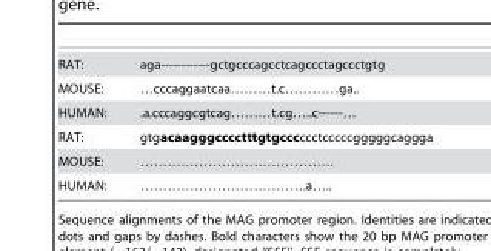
<table><tbody><tr><td>RAT:</td><td>aga------------gctgcccagcctcagccctagccctgtg</td></tr><tr><td>MOUSE:</td><td>…cccaggaatcaa………t.c…………ga..</td></tr><tr><td>HUMAN:</td><td>.a.cccaggcgtcag………t.cg…..c------…</td></tr><tr><td>RAT:</td><td>gtgacaagggcccctttgtgcccccctcccccgggggcaggga</td></tr><tr><td>MOUSE:</td><td>…………………………………….</td></tr><tr><td>HUMAN:</td><td>……………………………….a…..</td></tr></tbody></table>